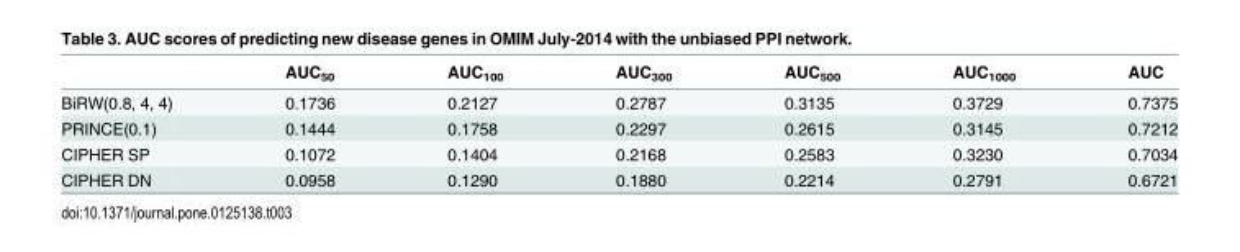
<table><thead><tr><td></td><td>AUC<sub>50</sub></td><td>AUC<sub>100</sub></td><td>AUC<sub>300</sub></td><td>AUC<sub>500</sub></td><td>AUC<sub>1000</sub></td><td>AUC</td></tr></thead><tbody><tr><td>BiRW(0.8, 4, 4)</td><td>0.1736</td><td>0.2127</td><td>0.2787</td><td>0.3135</td><td>0.3729</td><td>0.7375</td></tr><tr><td>PRINCE(0.1)</td><td>0.1444</td><td>0.1758</td><td>0.2297</td><td>0.2615</td><td>0.3145</td><td>0.7212</td></tr><tr><td>CIPHER SP</td><td>0.1072</td><td>0.1404</td><td>0.2168</td><td>0.2583</td><td>0.3230</td><td>0.7034</td></tr><tr><td>CIPHER DN</td><td>0.0958</td><td>0.1290</td><td>0.1880</td><td>0.2214</td><td>0.2791</td><td>0.6721</td></tr></tbody></table>